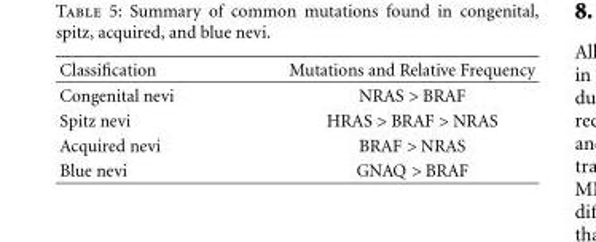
<table><thead><tr><td>Classification</td><td>Mutations and Relative Frequency</td></tr></thead><tbody><tr><td>Congenital nevi</td><td>NRAS &gt; BRAF</td></tr><tr><td>Spitz nevi</td><td>HRAS &gt; BRAF &gt; NRAS</td></tr><tr><td>Acquired nevi</td><td>BRAF &gt; NRAS</td></tr><tr><td>Blue nevi</td><td>GNAQ &gt; BRAF</td></tr></tbody></table>